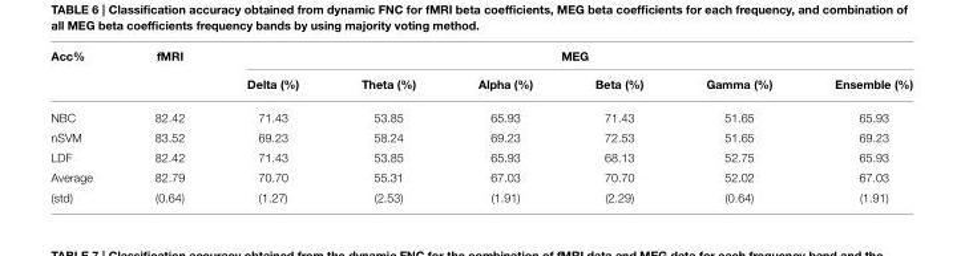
<table><thead><tr><td rowspan="2">Acc%</td><td rowspan="2">fMRI</td><td colspan="6">MEG</td></tr><tr><td>Delta (%)</td><td>Theta (%)</td><td>Alpha (%)</td><td>Beta (%)</td><td>Gamma (%)</td><td>Ensemble (%)</td></tr></thead><tbody><tr><td>NBC</td><td>82.42</td><td>71.43</td><td>53.85</td><td>65.93</td><td>71.43</td><td>51.65</td><td>65.93</td></tr><tr><td>nSVM</td><td>83.52</td><td>69.23</td><td>58.24</td><td>69.23</td><td>72.53</td><td>51.65</td><td>69.23</td></tr><tr><td>LDF</td><td>82.42</td><td>71.43</td><td>53.85</td><td>65.93</td><td>68.13</td><td>52.75</td><td>65.93</td></tr><tr><td>Average</td><td>82.79</td><td>70.70</td><td>55.31</td><td>67.03</td><td>70.70</td><td>52.02</td><td>67.03</td></tr><tr><td>(std)</td><td>(0.64)</td><td>(1.27)</td><td>(2.53)</td><td>(1.91)</td><td>(2.29)</td><td>(0.64)</td><td>(1.91)</td></tr></tbody></table>